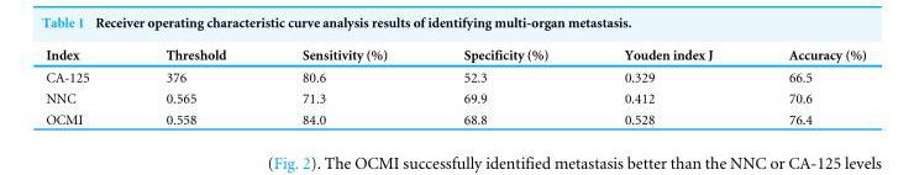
<table><thead><tr><td>Index</td><td>Threshold</td><td>Sensitivity (%)</td><td>Specificity (%)</td><td>Youden index J</td><td>Accuracy (%)</td></tr></thead><tbody><tr><td>CA-125</td><td>376</td><td>80.6</td><td>52.3</td><td>0.329</td><td>66.5</td></tr><tr><td>NNC</td><td>0.565</td><td>71.3</td><td>69.9</td><td>0.412</td><td>70.6</td></tr><tr><td>OCMI</td><td>0.558</td><td>84.0</td><td>68.8</td><td>0.528</td><td>76.4</td></tr></tbody></table>